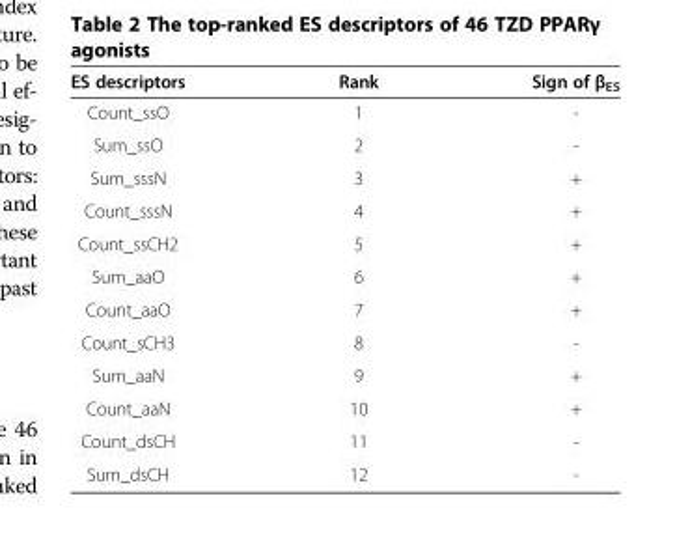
<table><thead><tr><td>ES descriptors</td><td>Rank</td><td>Sign of β<sub>ES</sub></td></tr></thead><tbody><tr><td>Count_ssO</td><td>1</td><td>-</td></tr><tr><td>Sum_ssO</td><td>2</td><td>-</td></tr><tr><td>Sum_sssN</td><td>3</td><td>+</td></tr><tr><td>Count_sssN</td><td>4</td><td>+</td></tr><tr><td>Count_ssCH2</td><td>5</td><td>+</td></tr><tr><td>Sum_aaO</td><td>6</td><td>+</td></tr><tr><td>Count_aaO</td><td>7</td><td>+</td></tr><tr><td>Count_sCH3</td><td>8</td><td>-</td></tr><tr><td>Sum_aaN</td><td>9</td><td>+</td></tr><tr><td>Count_aaN</td><td>10</td><td>+</td></tr><tr><td>Count_dsCH</td><td>11</td><td>-</td></tr><tr><td>Sum_dsCH</td><td>12</td><td>-</td></tr></tbody></table>